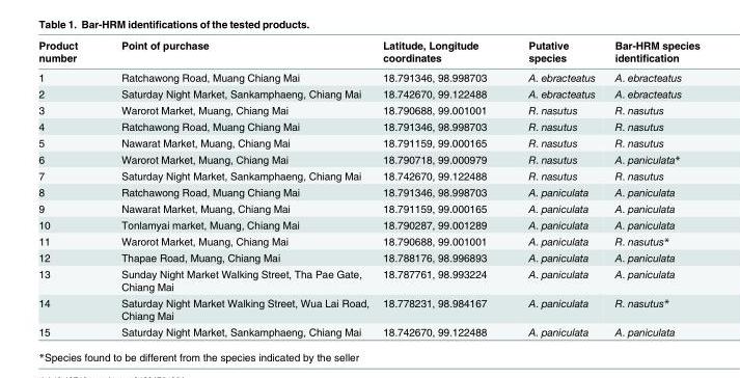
<table><thead><tr><td>Product number</td><td>Point of purchase</td><td>Latitude, Longitude coordinates</td><td>Putative species</td><td>Bar-HRM species identification</td></tr></thead><tbody><tr><td>1</td><td>Ratchawong Road, Muang Chiang Mai</td><td>18.791346, 98.998703</td><td>A. ebracteatus</td><td>A. ebracteatus</td></tr><tr><td>2</td><td>Saturday Night Market, Sankamphaeng, Chiang Mai</td><td>18.742670, 99.122488</td><td>A. ebracteatus</td><td>A. ebracteatus</td></tr><tr><td>3</td><td>Warorot Market, Muang, Chiang Mai</td><td>18.790688, 99.001001</td><td>R. nasutus</td><td>R. nasutus</td></tr><tr><td>4</td><td>Ratchawong Road, Muang Chiang Mai</td><td>18.791346, 98.998703</td><td>R. nasutus</td><td>R. nasutus</td></tr><tr><td>5</td><td>Nawarat Market, Muang, Chiang Mai</td><td>18.791159, 99.000165</td><td>R. nasutus</td><td>R. nasutus</td></tr><tr><td>6</td><td>Warorot Market, Muang, Chiang Mai</td><td>18.790718, 99.000979</td><td>R. nasutus</td><td>A. paniculata*</td></tr><tr><td>7</td><td>Saturday Night Market, Sankamphaeng, Chiang Mai</td><td>18.742670, 99.122488</td><td>R. nasutus</td><td>R. nasutus</td></tr><tr><td>8</td><td>Ratchawong Road, Muang Chiang Mai</td><td>18.791346, 98.998703</td><td>A. paniculata</td><td>A. paniculata</td></tr><tr><td>9</td><td>Nawarat Market, Muang, Chiang Mai</td><td>18.791159, 99.000165</td><td>A. paniculata</td><td>A. paniculata</td></tr><tr><td>10</td><td>Tonlamyai market, Muang, Chiang Mai</td><td>18.790287, 99.001289</td><td>A. paniculata</td><td>A. paniculata</td></tr><tr><td>11</td><td>Warorot Market, Muang, Chiang Mai</td><td>18.790688, 99.001001</td><td>A. paniculata</td><td>R. nasutus*</td></tr><tr><td>12</td><td>Thapae Road, Muang, Chiang Mai</td><td>18.788176, 98.996893</td><td>A. paniculata</td><td>A. paniculata</td></tr><tr><td>13</td><td>Sunday Night Market Walking Street, Tha Pae Gate, Chiang Mai</td><td>18.787761, 98.993224</td><td>A. paniculata</td><td>A. paniculata</td></tr><tr><td>14</td><td>Saturday Night Market Walking Street, Wua Lai Road, Chiang Mai</td><td>18.778231, 98.984167</td><td>A. paniculata</td><td>R. nasutus*</td></tr><tr><td>15</td><td>Saturday Night Market, Sankamphaeng, Chiang Mai</td><td>18.742670, 99.122488</td><td>A. paniculata</td><td>A. paniculata</td></tr></tbody></table>